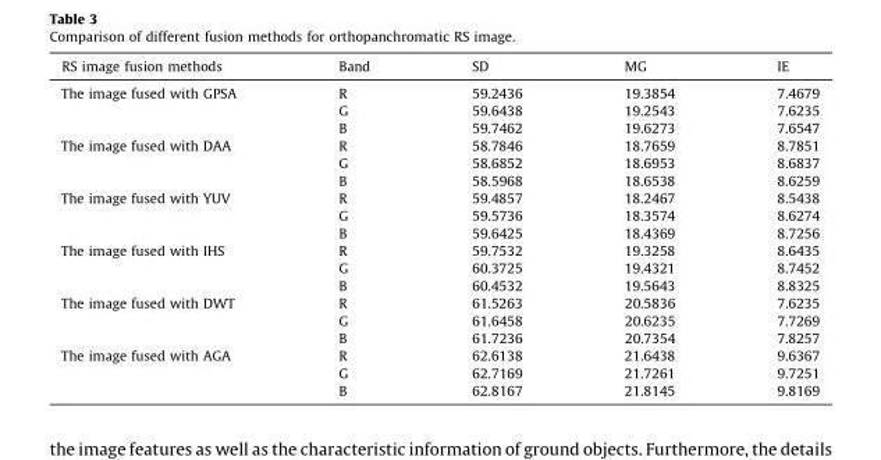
<table><thead><tr><td>RS image fusion methods</td><td>Band</td><td>SD</td><td>MG</td><td>IE</td></tr></thead><tbody><tr><td rowspan="3">The image fused with GPSA</td><td>R</td><td>59.2436</td><td>19.3854</td><td>7.4679</td></tr><tr><td>G</td><td>59.6438</td><td>19.2543</td><td>7.6235</td></tr><tr><td>B</td><td>59.7462</td><td>19.6273</td><td>7.6547</td></tr><tr><td rowspan="3">The image fused with DAA</td><td>R</td><td>58.7846</td><td>18.7659</td><td>8.7851</td></tr><tr><td>G</td><td>58.6852</td><td>18.6953</td><td>8.6837</td></tr><tr><td>B</td><td>58.5968</td><td>18.6538</td><td>8.6259</td></tr><tr><td rowspan="3">The image fused with YUV</td><td>R</td><td>59.4857</td><td>18.2467</td><td>8.5438</td></tr><tr><td>G</td><td>59.5736</td><td>18.3574</td><td>8.6274</td></tr><tr><td>B</td><td>59.6425</td><td>18.4369</td><td>8.7256</td></tr><tr><td rowspan="3">The image fused with IHS</td><td>R</td><td>59.7532</td><td>19.3258</td><td>8.6435</td></tr><tr><td>G</td><td>60.3725</td><td>19.4321</td><td>8.7452</td></tr><tr><td>B</td><td>60.4532</td><td>19.5643</td><td>8.8325</td></tr><tr><td rowspan="3">The image fused with DWT</td><td>R</td><td>61.5263</td><td>20.5836</td><td>7.6235</td></tr><tr><td>G</td><td>61.6458</td><td>20.6235</td><td>7.7269</td></tr><tr><td>B</td><td>61.7236</td><td>20.7354</td><td>7.8257</td></tr><tr><td rowspan="3">The image fused with AGA</td><td>R</td><td>62.6138</td><td>21.6438</td><td>9.6367</td></tr><tr><td>G</td><td>62.7169</td><td>21.7261</td><td>9.7251</td></tr><tr><td>B</td><td>62.8167</td><td>21.8145</td><td>9.8169</td></tr></tbody></table>